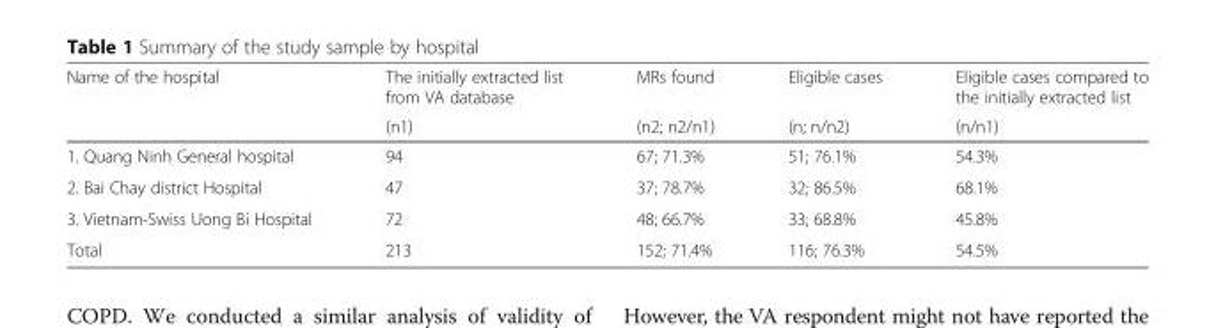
<table><thead><tr><td rowspan="2">Name of the hospital</td><td rowspan="2">The initially extracted list from VA database (n1)</td><td rowspan="2">MRs found (n2; n2/n1)</td><td rowspan="2">Eligible cases (n; n/n2)</td><td rowspan="2">Eligible cases compared to the initially extracted list (n/n1)</td></tr><tr></tr></thead><tbody><tr><td>1. Quang Ninh General hospital</td><td>94</td><td>67; 71.3%</td><td>51; 76.1%</td><td>54.3%</td></tr><tr><td>2. Bai Chay district Hospital</td><td>47</td><td>37; 78.7%</td><td>32; 86.5%</td><td>68.1%</td></tr><tr><td>3. Vietnam-Swiss Uong Bi Hospital</td><td>72</td><td>48; 66.7%</td><td>33; 68.8%</td><td>45.8%</td></tr><tr><td>Total</td><td>213</td><td>152; 71.4%</td><td>116; 76.3%</td><td>54.5%</td></tr></tbody></table>